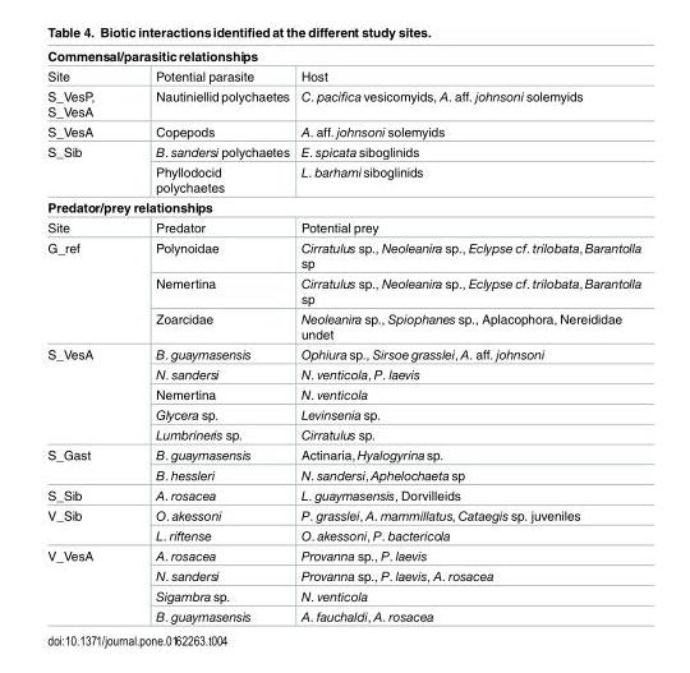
<table><tbody><tr><td colspan="3">Commensal/parasiticrelationships</td></tr><tr><td>Site</td><td>Potential parasite</td><td>Host</td></tr><tr><td>S_VesP, S_VesA</td><td>Nautiniellid polychaetes</td><td>C. pacifica vesicomyids, A. aff. johnsoni solemyids</td></tr><tr><td>S_VesA</td><td>Copepods</td><td>A. aff. johnsoni solemyids</td></tr><tr><td rowspan="2">S_Sib</td><td>B. sandersi polychaetes</td><td>E. spicata siboglinids</td></tr><tr><td>Phyllodocid polychaetes</td><td>L. barhamisiboglinids</td></tr><tr><td colspan="3">Predator/prey relationships</td></tr><tr><td>Site</td><td>Predator</td><td>Potential prey</td></tr><tr><td rowspan="3">G_ref</td><td>Polynoidae</td><td>Cirratulus sp., Neoleanira sp., Eclypse cf. trilobata,Barantolla sp</td></tr><tr><td>Nemertina</td><td>Cirratulus sp., Neoleanira sp., Eclypse cf. trilobata,Barantolla sp</td></tr><tr><td>Zoarcidae</td><td>Neoleanira sp., Spiophanes sp., Aplacophora, Nereididae undet</td></tr><tr><td rowspan="5">S_VesA</td><td>B. guaymasensis</td><td>Ophiura sp., Sirsoe grasslei, A. aff. johnsoni</td></tr><tr><td>N. sandersi</td><td>N. venticola, P. laevis</td></tr><tr><td>Nemertina</td><td>N. venticola</td></tr><tr><td>Glycera sp.</td><td>Levinsenia sp.</td></tr><tr><td>Lumbrineris sp.</td><td>Cirratulus sp.</td></tr><tr><td rowspan="2">S_Gast</td><td>B. guaymasensis</td><td>Actinaria, Hyalogyrinasp.</td></tr><tr><td>B. hessleri</td><td>N. sandersi,Aphelochaeta sp</td></tr><tr><td>S_Sib</td><td>A. rosacea</td><td>L. guaymasensis, Dorvilleids</td></tr><tr><td rowspan="2">V_Sib</td><td>O. akessoni</td><td>P. grasslei, A. mammillatus, Cataegis sp. juveniles</td></tr><tr><td>L. riftense</td><td>O. akessoni, P. bactericola</td></tr><tr><td rowspan="4">V_VesA</td><td>A. rosacea</td><td>Provanna sp., P. laevis</td></tr><tr><td>N. sandersi</td><td>Provanna sp., P. laevis, A. rosacea</td></tr><tr><td>Sigambra sp.</td><td>N. venticola</td></tr><tr><td>B. guaymasensis</td><td>A. fauchaldi, A. rosacea</td></tr></tbody></table>